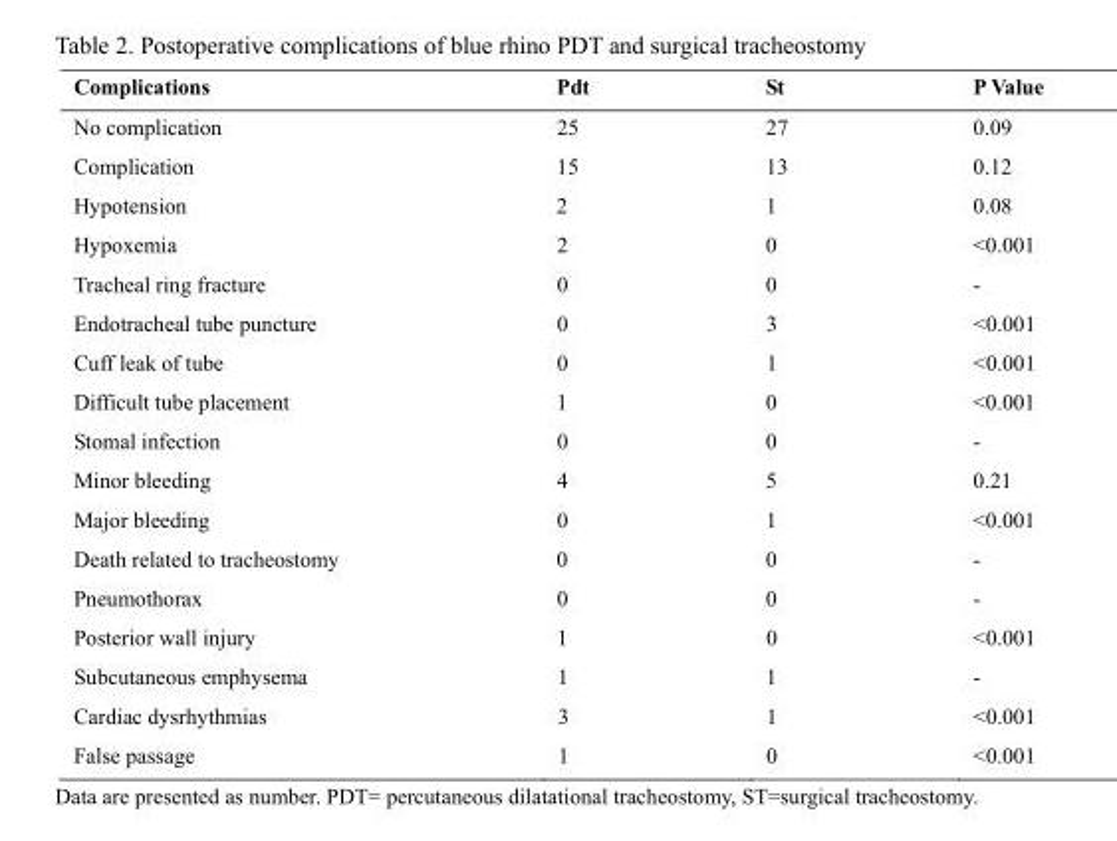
<table><thead><tr><td>Complications</td><td>Pdt</td><td>St</td><td>P Value</td></tr></thead><tbody><tr><td>No complication</td><td>25</td><td>27</td><td>0.09</td></tr><tr><td>Complication</td><td>15</td><td>13</td><td>0.12</td></tr><tr><td>Hypotension</td><td>2</td><td>1</td><td>0.08</td></tr><tr><td>Hypoxemia</td><td>2</td><td>0</td><td>&lt;0.001</td></tr><tr><td>Tracheal ring fracture</td><td>0</td><td>0</td><td>-</td></tr><tr><td>Endotracheal tube puncture</td><td>0</td><td>3</td><td>&lt;0.001</td></tr><tr><td>Cuff leak of tube</td><td>0</td><td>1</td><td>&lt;0.001</td></tr><tr><td>Difficult tube placement</td><td>1</td><td>0</td><td>&lt;0.001</td></tr><tr><td>Stomal infection</td><td>0</td><td>0</td><td>-</td></tr><tr><td>Minor bleeding</td><td>4</td><td>5</td><td>0.21</td></tr><tr><td>Major bleeding</td><td>0</td><td>1</td><td>&lt;0.001</td></tr><tr><td>Death related to tracheostomy</td><td>0</td><td>0</td><td>-</td></tr><tr><td>Pneumothorax</td><td>0</td><td>0</td><td>-</td></tr><tr><td>Posterior wall injury</td><td>1</td><td>0</td><td>&lt;0.001</td></tr><tr><td>Subcutaneous emphysema</td><td>1</td><td>1</td><td>-</td></tr><tr><td>Cardiac dysrhythmias</td><td>3</td><td>1</td><td>&lt;0.001</td></tr><tr><td>False passage</td><td>1</td><td>0</td><td>&lt;0.001</td></tr></tbody></table>